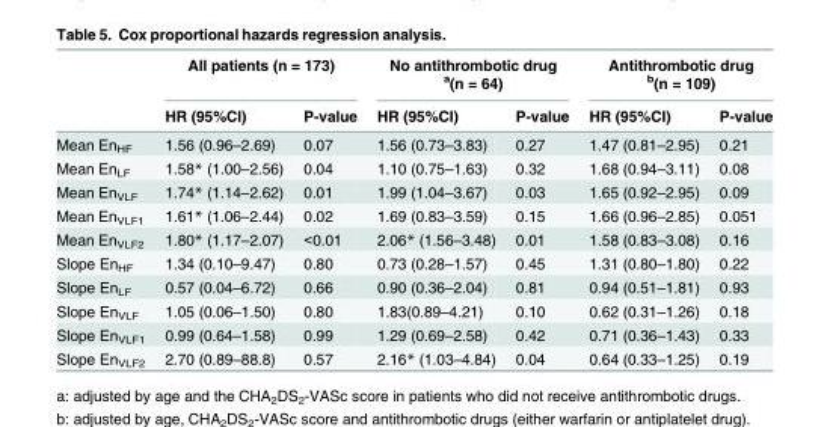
<table><thead><tr><td rowspan="2"></td><td colspan="2">All patients (n = 173)</td><td colspan="2">No antithrombotic drug <sup>a</sup>(n = 64)</td><td colspan="2">Antithrombotic drug <sup>b</sup>(n = 109)</td></tr><tr><td>HR (95%CI)</td><td>P-value</td><td>HR (95%CI)</td><td>P-value</td><td>HR (95%CI)</td><td>P-value</td></tr></thead><tbody><tr><td>Mean En<sub>HF</sub></td><td>1.56 (0.96–2.69)</td><td>0.07</td><td>1.56 (0.73–3.83)</td><td>0.27</td><td>1.47 (0.81–2.95)</td><td>0.21</td></tr><tr><td>Mean En<sub>LF</sub></td><td>1.58* (1.00–2.56)</td><td>0.04</td><td>1.10 (0.75–1.63)</td><td>0.32</td><td>1.68 (0.94–3.11)</td><td>0.08</td></tr><tr><td>Mean En<sub>VLF</sub></td><td>1.74* (1.14–2.62)</td><td>0.01</td><td>1.99 (1.04–3.67)</td><td>0.03</td><td>1.65 (0.92–2.95)</td><td>0.09</td></tr><tr><td>Mean En<sub>VLF1</sub></td><td>1.61* (1.06–2.44)</td><td>0.02</td><td>1.69 (0.83–3.59)</td><td>0.15</td><td>1.66 (0.96–2.85)</td><td>0.051</td></tr><tr><td>Mean En<sub>VLF2</sub></td><td>1.80* (1.17–2.07)</td><td>&lt;0.01</td><td>2.06* (1.56–3.48)</td><td>0.01</td><td>1.58 (0.83–3.08)</td><td>0.16</td></tr><tr><td>Slope En<sub>HF</sub></td><td>1.34 (0.10–9.47)</td><td>0.80</td><td>0.73 (0.28–1.57)</td><td>0.45</td><td>1.31 (0.80–1.80)</td><td>0.22</td></tr><tr><td>Slope En<sub>LF</sub></td><td>0.57 (0.04–6.72)</td><td>0.66</td><td>0.90 (0.36–2.04)</td><td>0.81</td><td>0.94 (0.51–1.81)</td><td>0.93</td></tr><tr><td>Slope En<sub>VLF</sub></td><td>1.05 (0.06–1.50)</td><td>0.80</td><td>1.83(0.89–4.21)</td><td>0.10</td><td>0.62 (0.31–1.26)</td><td>0.18</td></tr><tr><td>Slope En<sub>VLF1</sub></td><td>0.99 (0.64–1.58)</td><td>0.99</td><td>1.29 (0.69–2.58)</td><td>0.42</td><td>0.71 (0.36–1.43)</td><td>0.33</td></tr><tr><td>Slope En<sub>VLF2</sub></td><td>2.70 (0.89–88.8)</td><td>0.57</td><td>2.16* (1.03–4.84)</td><td>0.04</td><td>0.64 (0.33–1.25)</td><td>0.19</td></tr></tbody></table>